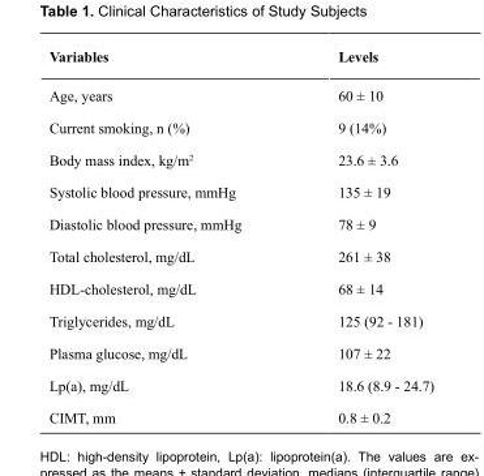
<table><thead><tr><td>Variables</td><td>Levels</td></tr></thead><tbody><tr><td>Age, years</td><td>60 ± 10</td></tr><tr><td>Current smoking, n (%)</td><td>9 (14%)</td></tr><tr><td>Body mass index, kg/m<sup>2</sup></td><td>23.6 ± 3.6</td></tr><tr><td>Systolic blood pressure, mmHg</td><td>135 ± 19</td></tr><tr><td>Diastolic blood pressure, mmHg</td><td>78 ± 9</td></tr><tr><td>Total cholesterol, mg/dL</td><td>261 ± 38</td></tr><tr><td>HDL-cholesterol, mg/dL</td><td>68 ± 14</td></tr><tr><td>Triglycerides, mg/dL</td><td>125 (92 - 181)</td></tr><tr><td>Plasma glucose, mg/dL</td><td>107 ± 22</td></tr><tr><td>Lp(a), mg/dL</td><td>18.6 (8.9 - 24.7)</td></tr><tr><td>CIMT, mm</td><td>0.8 ± 0.2</td></tr></tbody></table>